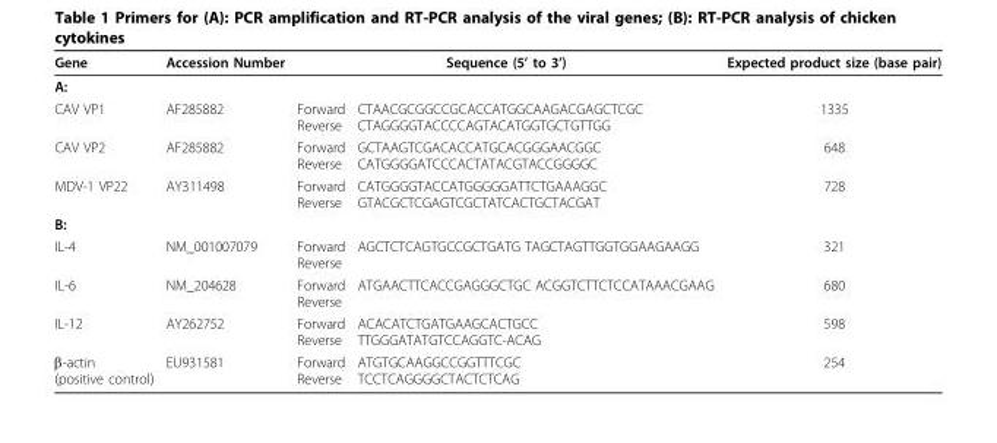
<table><thead><tr><td rowspan="2">Gene A:</td><td rowspan="2">Accession Number</td><td colspan="2">Sequence (5’ to 3’)</td><td rowspan="2">Expected product size (base pair)</td></tr><tr><td></td><td></td></tr></thead><tbody><tr><td>CAV VP1</td><td>AF285882</td><td>Forward Reverse</td><td>CTAACGCGGCCGCACCATGGCAAGACGAGCTCGC CTAGGGGTACCCCAGTACATGGTGCTGTTGG</td><td>1335</td></tr><tr><td>CAV VP2</td><td>AF285882</td><td>Forward Reverse</td><td>GCTAAGTCGACACCATGCACGGGAACGGC CATGGGGATCCCACTATACGTACCGGGGC</td><td>648</td></tr><tr><td>MDV-1 VP22</td><td>AY311498</td><td>Forward Reverse</td><td>CATGGGGTACCATGGGGGATTCTGAAAGGC GTACGCTCGAGTCGCTATCACTGCTACGAT</td><td>728</td></tr><tr><td colspan="5">B:</td></tr><tr><td>IL-4</td><td>NM_001007079</td><td>Forward Reverse</td><td>AGCTCTCAGTGCCGCTGATG TAGCTAGTTGGTGGAAGAAGG</td><td>321</td></tr><tr><td>IL-6</td><td>NM_204628</td><td>Forward Reverse</td><td>ATGAACTTCACCGAGGGCTGC ACGGTCTTCTCCATAAACGAAG</td><td>680</td></tr><tr><td>IL-12</td><td>AY262752</td><td>Forward Reverse</td><td>ACACATCTGATGAAGCACTGCC TTGGGATATGTCCAGGTC-ACAG</td><td>598</td></tr><tr><td>β-actin (positive control)</td><td>EU931581</td><td>Forward Reverse</td><td>ATGTGCAAGGCCGGTTTCGC TCCTCAGGGGCTACTCTCAG</td><td>254</td></tr></tbody></table>